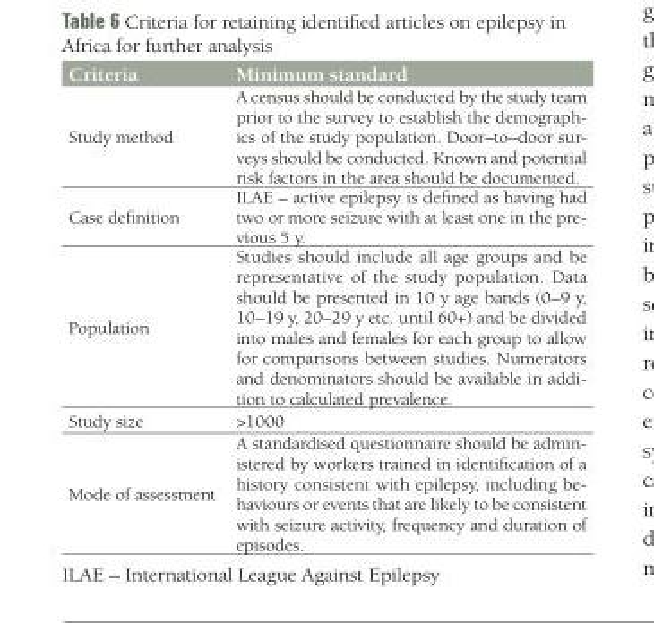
<table><thead><tr><td>Criteria</td><td>Minimum standard</td></tr></thead><tbody><tr><td>Study method</td><td>A census should be conducted by the study team prior to the survey to establish the demograph- ics of the study population. Door–to–door sur- veys should be conducted. Known and potential risk factors in the area should be documented.</td></tr><tr><td>Case definition</td><td>ILAE – active epilepsy is defined as having had two or more seizure with at least one in the pre- vious 5 y.</td></tr><tr><td>Population</td><td>Studies should include all age groups and be representative of the study population. Data should be presented in 10 y age bands (0–9 y, 10–19 y, 20–29 y etc. until 60+) and be divided into males and females for each group to allow for comparisons between studies. Numerators and denominators should be available in addi- tion to calculated prevalence.</td></tr><tr><td>Study size</td><td>&gt;1000</td></tr><tr><td>Mode of assessment</td><td>A standardised questionnaire should be admin- istered by workers trained in identification of a history consistent with epilepsy, including be- haviours or events that are likely to be consistent with seizure activity, frequency and duration of episodes.</td></tr></tbody></table>